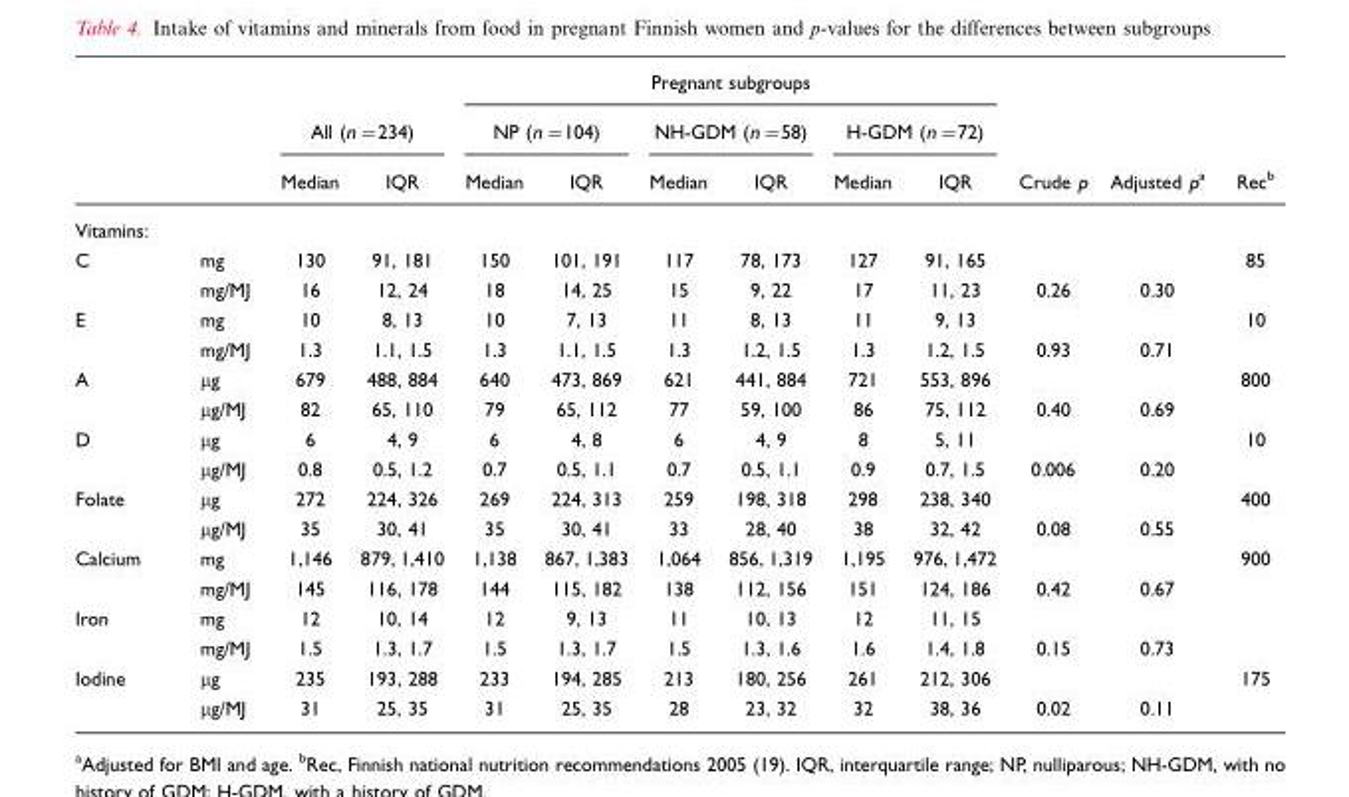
<table><thead><tr><td rowspan="3"></td><td rowspan="3"></td><td></td><td></td><td colspan="6">Pregnant subgroups</td><td rowspan="3">Crude p</td><td rowspan="3">Adjusted pa</td><td rowspan="3">Rec<sup>b</sup></td></tr><tr><td colspan="2">All (n=234)</td><td colspan="2">NP (n=104)</td><td colspan="2">NH-GDM (n=58)</td><td colspan="2">H-GDM (n=72)</td></tr><tr><td>Median</td><td>IQR</td><td>Median</td><td>IQR</td><td>Median</td><td>IQR</td><td>Median</td><td>IQR</td></tr></thead><tbody><tr><td colspan="13">Vitamins:</td></tr><tr><td rowspan="2">C</td><td>mg</td><td>130</td><td>91, 181</td><td>150</td><td>101, 191</td><td>117</td><td>78, 173</td><td>127</td><td>91, 165</td><td></td><td></td><td>85</td></tr><tr><td>mg/MJ</td><td>16</td><td>12, 24</td><td>18</td><td>14, 25</td><td>15</td><td>9, 22</td><td>17</td><td>11, 23</td><td>0.26</td><td>0.30</td><td></td></tr><tr><td rowspan="2">E</td><td>mg</td><td>10</td><td>8, 13</td><td>10</td><td>7, 13</td><td>11</td><td>8, 13</td><td>11</td><td>9, 13</td><td></td><td></td><td>10</td></tr><tr><td>mg/MJ</td><td>1.3</td><td>1.1, 1.5</td><td>1.3</td><td>1.1, 1.5</td><td>1.3</td><td>1.2, 1.5</td><td>1.3</td><td>1.2, 1.5</td><td>0.93</td><td>0.71</td><td></td></tr><tr><td rowspan="2">A</td><td>µg</td><td>679</td><td>488, 884</td><td>640</td><td>473, 869</td><td>621</td><td>441, 884</td><td>721</td><td>553, 896</td><td></td><td></td><td>800</td></tr><tr><td>µg/MJ</td><td>82</td><td>65, 110</td><td>79</td><td>65, 112</td><td>77</td><td>59, 100</td><td>86</td><td>75, 112</td><td>0.40</td><td>0.69</td><td></td></tr><tr><td rowspan="2">D</td><td>µg</td><td>6</td><td>4, 9</td><td>6</td><td>4, 8</td><td>6</td><td>4, 9</td><td>8</td><td>5, 11</td><td></td><td></td><td>10</td></tr><tr><td>µg/MJ</td><td>0.8</td><td>0.5, 1.2</td><td>0.7</td><td>0.5, 1.1</td><td>0.7</td><td>0.5, 1.1</td><td>0.9</td><td>0.7, 1.5</td><td>0.006</td><td>0.20</td><td></td></tr><tr><td rowspan="2">Folate</td><td>µg</td><td>272</td><td>224, 326</td><td>269</td><td>224, 313</td><td>259</td><td>198, 318</td><td>298</td><td>238, 340</td><td></td><td></td><td>400</td></tr><tr><td>µg/MJ</td><td>35</td><td>30, 41</td><td>35</td><td>30, 41</td><td>33</td><td>28, 40</td><td>38</td><td>32, 42</td><td>0.08</td><td>0.55</td><td></td></tr><tr><td rowspan="2">Calcium</td><td>mg</td><td>1,146</td><td>879, 1,410</td><td>1,138</td><td>867, 1,383</td><td>1,064</td><td>856, 1,319</td><td>1,195</td><td>976, 1,472</td><td></td><td></td><td>900</td></tr><tr><td>mg/MJ</td><td>145</td><td>116, 178</td><td>144</td><td>115, 182</td><td>138</td><td>112, 156</td><td>151</td><td>124, 186</td><td>0.42</td><td>0.67</td><td></td></tr><tr><td rowspan="2">Iron</td><td>mg</td><td>12</td><td>10, 14</td><td>12</td><td>9, 13</td><td>11</td><td>10, 13</td><td>12</td><td>11, 15</td><td></td><td></td><td></td></tr><tr><td>mg/MJ</td><td>1.5</td><td>1.3, 1.7</td><td>1.5</td><td>1.3, 1.7</td><td>1.5</td><td>1.3, 1.6</td><td>1.6</td><td>1.4, 1.8</td><td>0.15</td><td>0.73</td><td></td></tr><tr><td rowspan="2">Iodine</td><td>µg</td><td>235</td><td>193, 288</td><td>233</td><td>194, 285</td><td>213</td><td>180, 256</td><td>261</td><td>212, 306</td><td></td><td></td><td>175</td></tr><tr><td>µg/MJ</td><td>31</td><td>25, 35</td><td>31</td><td>25, 35</td><td>28</td><td>23, 32</td><td>32</td><td>38, 36</td><td>0.02</td><td>0.11</td><td></td></tr></tbody></table>